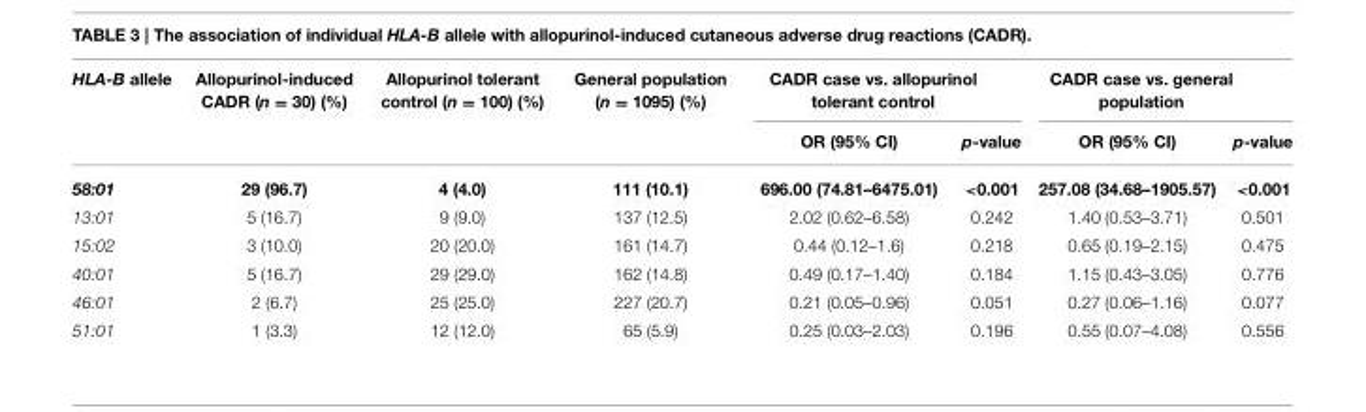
<table><thead><tr><td rowspan="2">HLA-B allele</td><td rowspan="2">Allopurinol-induced CADR (n = 30) (%)</td><td rowspan="2">Allopurinol tolerant control (n = 100) (%)</td><td rowspan="2">General population (n = 1095) (%)</td><td colspan="2">CADR case vs. allopurinol tolerant control</td><td colspan="2">CADR case vs. general population</td></tr><tr><td>OR (95% CI)</td><td>p-value</td><td>OR (95% CI)</td><td>p-value</td></tr></thead><tbody><tr><td>58:01</td><td>29 (96.7)</td><td>4 (4.0)</td><td>111 (10.1)</td><td>696.00 (74.81–6475.01)</td><td>&lt;0.001</td><td>257.08 (34.68–1905.57)</td><td>&lt;0.001</td></tr><tr><td>13:01</td><td>5 (16.7)</td><td>9 (9.0)</td><td>137 (12.5)</td><td>2.02 (0.62–6.58)</td><td>0.242</td><td>1.40 (0.53–3.71)</td><td>0.501</td></tr><tr><td>15:02</td><td>3 (10.0)</td><td>20 (20.0)</td><td>161 (14.7)</td><td>0.44 (0.12–1.6)</td><td>0.218</td><td>0.65 (0.19–2.15)</td><td>0.475</td></tr><tr><td>40:01</td><td>5 (16.7)</td><td>29 (29.0)</td><td>162 (14.8)</td><td>0.49 (0.17–1.40)</td><td>0.184</td><td>1.15 (0.43–3.05)</td><td>0.776</td></tr><tr><td>46:01</td><td>2 (6.7)</td><td>25 (25.0)</td><td>227 (20.7)</td><td>0.21 (0.05–0.96)</td><td>0.051</td><td>0.27 (0.06–1.16)</td><td>0.077</td></tr><tr><td>51:01</td><td>1 (3.3)</td><td>12 (12.0)</td><td>65 (5.9)</td><td>0.25 (0.03–2.03)</td><td>0.196</td><td>0.55 (0.07–4.08)</td><td>0.556</td></tr></tbody></table>